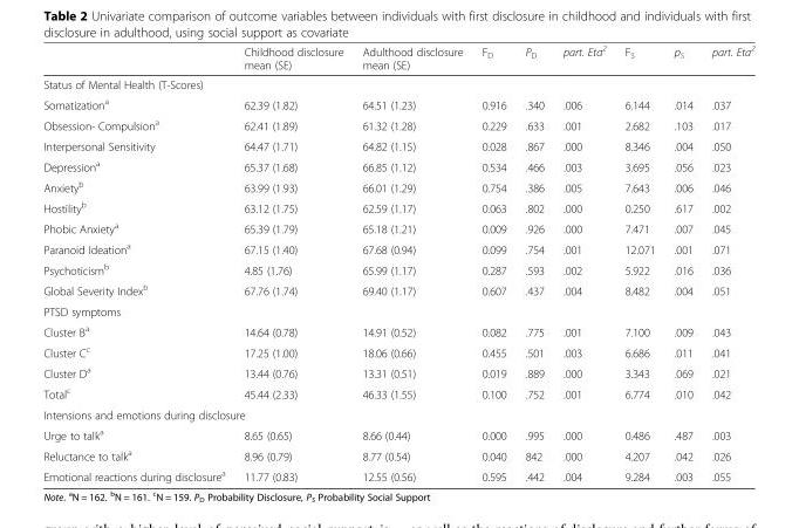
<table><thead><tr><td></td><td>Childhood disclosure mean (SE)</td><td>Adulthood disclosure mean (SE)</td><td>F<sub>D</sub></td><td>P<sub>D</sub></td><td>part. Eta<sup>2</sup></td><td>F<sub>S</sub></td><td>p<sub>S</sub></td><td>part. Eta<sup>2</sup></td></tr></thead><tbody><tr><td colspan="9">Status of Mental Health (T-Scores)</td></tr><tr><td>Somatization<sup>a</sup></td><td>62.39 (1.82)</td><td>64.51 (1.23)</td><td>0.916</td><td>.340</td><td>.006</td><td>6.144</td><td>.014</td><td>.037</td></tr><tr><td>Obsession- Compulsion<sup>a</sup></td><td>62.41 (1.89)</td><td>61.32 (1.28)</td><td>0.229</td><td>.633</td><td>.001</td><td>2.682</td><td>.103</td><td>.017</td></tr><tr><td>Interpersonal Sensitivity</td><td>64.47 (1.71)</td><td>64.82 (1.15)</td><td>0.028</td><td>.867</td><td>.000</td><td>8.346</td><td>.004</td><td>.050</td></tr><tr><td>Depression<sup>a</sup></td><td>65.37 (1.68)</td><td>66.85 (1.12)</td><td>0.534</td><td>.466</td><td>.003</td><td>3.695</td><td>.056</td><td>.023</td></tr><tr><td>Anxiety<sup>b</sup></td><td>63.99 (1.93)</td><td>66.01 (1.29)</td><td>0.754</td><td>.386</td><td>.005</td><td>7.643</td><td>.006</td><td>.046</td></tr><tr><td>Hostility<sup>b</sup></td><td>63.12 (1.75)</td><td>62.59 (1.17)</td><td>0.063</td><td>.802</td><td>.000</td><td>0.250</td><td>.617</td><td>.002</td></tr><tr><td>Phobic Anxiety<sup>a</sup></td><td>65.39 (1.79)</td><td>65.18 (1.21)</td><td>0.009</td><td>.926</td><td>.000</td><td>7.471</td><td>.007</td><td>.045</td></tr><tr><td>Paranoid Ideation<sup>a</sup></td><td>67.15 (1.40)</td><td>67.68 (0.94)</td><td>0.099</td><td>.754</td><td>.001</td><td>12.071</td><td>.001</td><td>.071</td></tr><tr><td>Psychoticism<sup>b</sup></td><td>4.85 (1.76)</td><td>65.99 (1.17)</td><td>0.287</td><td>.593</td><td>.002</td><td>5.922</td><td>.016</td><td>.036</td></tr><tr><td>Global Severity Index<sup>b</sup></td><td>67.76 (1.74)</td><td>69.40 (1.17)</td><td>0.607</td><td>.437</td><td>.004</td><td>8.482</td><td>.004</td><td>.051</td></tr><tr><td colspan="9">PTSD symptoms</td></tr><tr><td>Cluster B<sup>a</sup></td><td>14.64 (0.78)</td><td>14.91 (0.52)</td><td>0.082</td><td>.775</td><td>.001</td><td>7.100</td><td>.009</td><td>.043</td></tr><tr><td>Cluster C<sup>c</sup></td><td>17.25 (1.00)</td><td>18.06 (0.66)</td><td>0.455</td><td>.501</td><td>.003</td><td>6.686</td><td>.011</td><td>.041</td></tr><tr><td>Cluster D<sup>a</sup></td><td>13.44 (0.76)</td><td>13.31 (0.51)</td><td>0.019</td><td>.889</td><td>.000</td><td>3.343</td><td>.069</td><td>.021</td></tr><tr><td>Total<sup>c</sup></td><td>45.44 (2.33)</td><td>46.33 (1.55)</td><td>0.100</td><td>.752</td><td>.001</td><td>6.774</td><td>.010</td><td>.042</td></tr><tr><td colspan="9">Intensions and emotions during disclosure</td></tr><tr><td>Urge to talk<sup>a</sup></td><td>8.65 (0.65)</td><td>8.66 (0.44)</td><td>0.000</td><td>.995</td><td>.000</td><td>0.486</td><td>.487</td><td>.003</td></tr><tr><td>Reluctance to talk<sup>a</sup></td><td>8.96 (0.79)</td><td>8.77 (0.54)</td><td>0.040</td><td>842</td><td>.000</td><td>4.207</td><td>.042</td><td>.026</td></tr><tr><td>Emotional reactions during disclosure<sup>a</sup></td><td>11.77 (0.83)</td><td>12.55 (0.56)</td><td>0.595</td><td>.442</td><td>.004</td><td>9.284</td><td>.003</td><td>.055</td></tr></tbody></table>